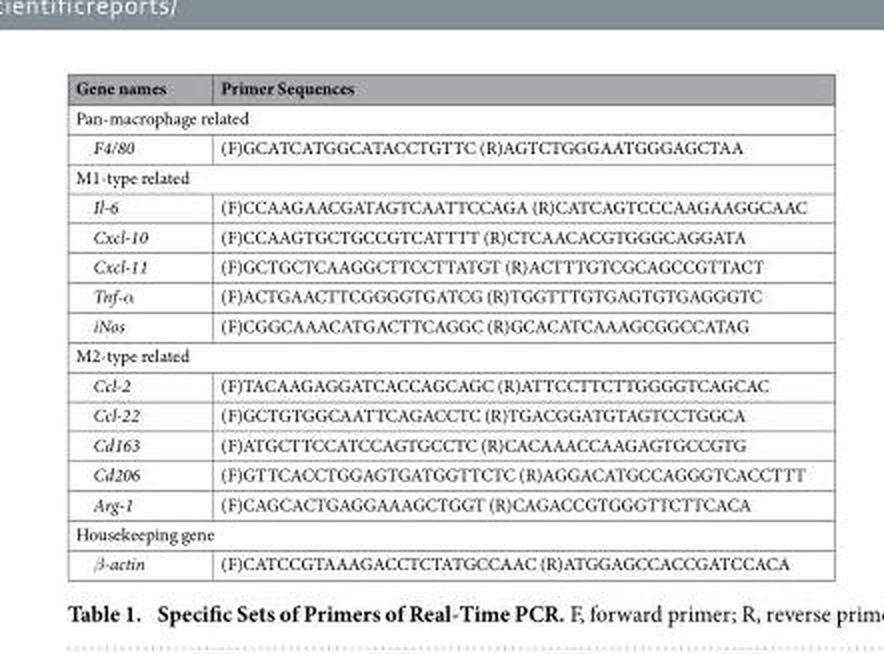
<table><thead><tr><td>Gene names</td><td>Primer Sequences</td></tr></thead><tbody><tr><td colspan="2">Pan-macrophage related</td></tr><tr><td>F4/80</td><td>(F)GCATCATGGCATACCTGTTC (R)AGTCTGGGAATGGGAGCTAA</td></tr><tr><td colspan="2">M1-type related</td></tr><tr><td>Il-6</td><td>(F)CCAAGAACGATAGTCAATTCCAGA (R)CATCAGTCCCAAGAAGGCAAC</td></tr><tr><td>Cxcl-10</td><td>(F)CCAAGTGCTGCCGTCATTTT (R)CTCAACACGTGGGCAGGATA</td></tr><tr><td>Cxcl-11</td><td>(F)GCTGCTCAAGGCTTCCTTATGT (R)ACTTTGTCGCAGCCGTTACT</td></tr><tr><td>Tnf-α</td><td>(F)ACTGAACTTCGGGGTGATCG (R)TGGTTTGTGAGTGTGAGGGTC</td></tr><tr><td>iNos</td><td>(F)CGGCAAACATGACTTCAGGC (R)GCACATCAAAGCGGCCATAG</td></tr><tr><td colspan="2">M2-type related</td></tr><tr><td>Ccl-2</td><td>(F)TACAAGAGGATCACCAGCAGC (R)ATTCCTTCTTGGGGTCAGCAC</td></tr><tr><td>Ccl-22</td><td>(F)GCTGTGGCAATTCAGACCTC (R)TGACGGATGTAGTCCTGGCA</td></tr><tr><td>Cd163</td><td>(F)ATGCTTCCATCCAGTGCCTC (R)CACAAACCAAGAGTGCCGTG</td></tr><tr><td>Cd206</td><td>(F)GTTCACCTGGAGTGATGGTTCTC (R)AGGACATGCCAGGGTCACCTTT</td></tr><tr><td>Arg-1</td><td>(F)CAGCACTGAGGAAAGCTGGT (R)CAGACCGTGGGTTCTTCACA</td></tr><tr><td colspan="2">Housekeeping gene</td></tr><tr><td>β-actin</td><td>(F)CATCCGTAAAGACCTCTATGCCAAC (R)ATGGAGCCACCGATCCACA</td></tr></tbody></table>